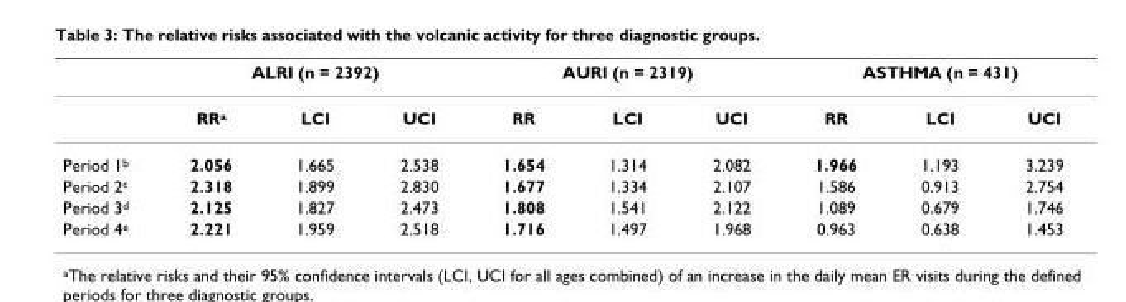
<table><thead><tr><td rowspan="2"></td><td colspan="3">ALRI (n = 2392)</td><td colspan="3">AURI (n = 2319)</td><td colspan="3">ASTHMA (n = 431)</td></tr><tr><td>RR<sup>a</sup></td><td>LCI</td><td>UCI</td><td>RR</td><td>LCI</td><td>UCI</td><td>RR</td><td>LCI</td><td>UCI</td></tr></thead><tbody><tr><td>Period 1<sup>b</sup></td><td>2.056</td><td>1.665</td><td>2.538</td><td>1.654</td><td>1.314</td><td>2.082</td><td>1.966</td><td>1.193</td><td>3.239</td></tr><tr><td>Period 2<sup>c</sup></td><td>2.318</td><td>1.899</td><td>2.830</td><td>1.677</td><td>1.334</td><td>2.107</td><td>1.586</td><td>0.913</td><td>2.754</td></tr><tr><td>Period 3<sup>d</sup></td><td>2.125</td><td>1.827</td><td>2.473</td><td>1.808</td><td>1.541</td><td>2.122</td><td>1.089</td><td>0.679</td><td>1.746</td></tr><tr><td>Period 4<sup>e</sup></td><td>2.221</td><td>1.959</td><td>2.518</td><td>1.716</td><td>1.497</td><td>1.968</td><td>0.963</td><td>0.638</td><td>1.453</td></tr></tbody></table>